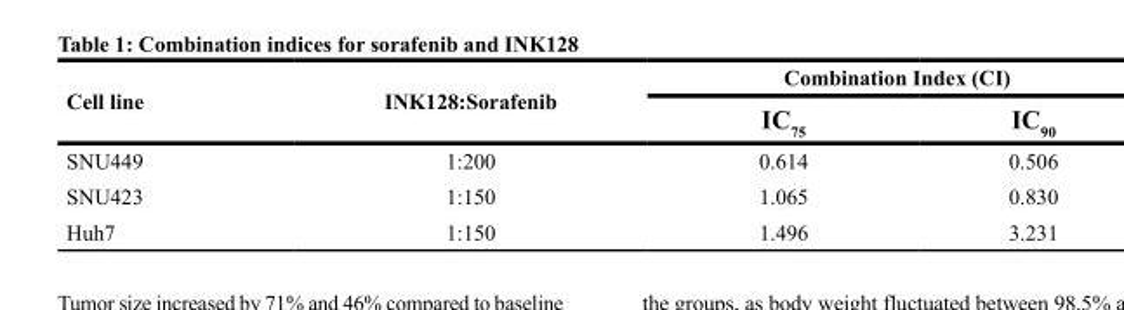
<table><thead><tr><td rowspan="2">Cell line</td><td rowspan="2">INK128:Sorafenib</td><td colspan="2">Combination Index (CI)</td></tr><tr><td>IC<sub>75</sub></td><td>IC<sub>90</sub></td></tr></thead><tbody><tr><td>SNU449</td><td>1:200</td><td>0.614</td><td>0.506</td></tr><tr><td>SNU423</td><td>1:150</td><td>1.065</td><td>0.830</td></tr><tr><td>Huh7</td><td>1:150</td><td>1.496</td><td>3.231</td></tr></tbody></table>